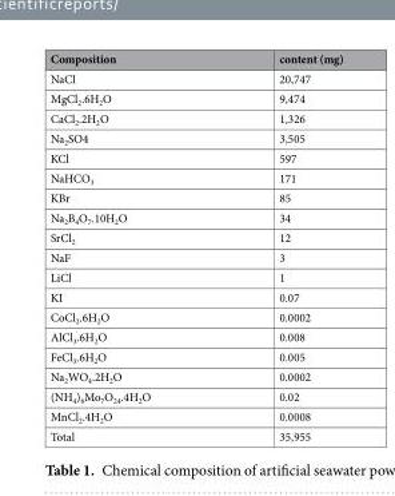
<table><thead><tr><td>Composition</td><td>content (mg)</td></tr></thead><tbody><tr><td>NaCl</td><td>20,747</td></tr><tr><td>MgCl<sub>2</sub>.6H<sub>2</sub>O</td><td>9,474</td></tr><tr><td>CaCl<sub>2</sub>.2H<sub>2</sub>O</td><td>1,326</td></tr><tr><td>Na<sub>2</sub>SO4</td><td>3,505</td></tr><tr><td>KCl</td><td>597</td></tr><tr><td>NaHCO<sub>3</sub></td><td>171</td></tr><tr><td>KBr</td><td>85</td></tr><tr><td>Na<sub>2</sub>B<sub>4</sub>O<sub>7</sub>.10H<sub>2</sub>O</td><td>34</td></tr><tr><td>SrCl<sub>2</sub></td><td>12</td></tr><tr><td>NaF</td><td>3</td></tr><tr><td>LiCl</td><td>1</td></tr><tr><td>KI</td><td>0.07</td></tr><tr><td>CoCl<sub>2</sub>.6H<sub>2</sub>O</td><td>0.0002</td></tr><tr><td>AlCl<sub>3</sub>.6H<sub>2</sub>O</td><td>0.008</td></tr><tr><td>FeCl<sub>3</sub>.6H<sub>2</sub>O</td><td>0.005</td></tr><tr><td>Na<sub>2</sub>WO<sub>4</sub>.2H<sub>2</sub>O</td><td>0.0002</td></tr><tr><td>(NH<sub>4</sub>)<sub>6</sub>Mo<sub>7</sub>O<sub>24</sub>.4H<sub>2</sub>O</td><td>0.02</td></tr><tr><td>MnCl<sub>2</sub>.4H<sub>2</sub>O</td><td>0.0008</td></tr><tr><td>Total</td><td>35,955</td></tr></tbody></table>